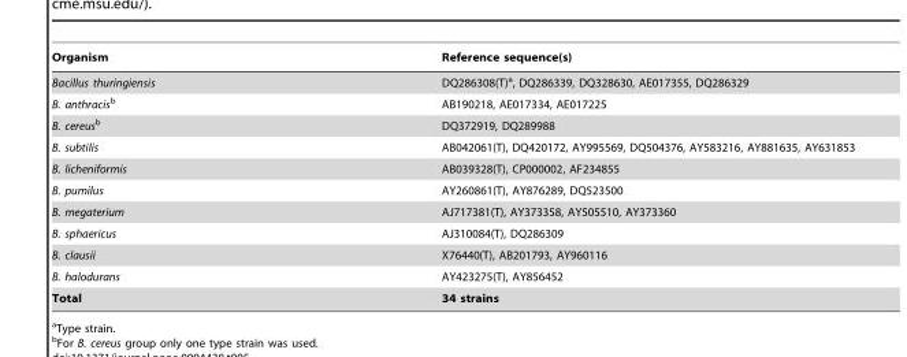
<table><thead><tr><td>Organism</td><td>Reference sequence(s)</td></tr></thead><tbody><tr><td>Bacillus thuringiensis</td><td>DQ286308(T)<sup>a</sup>, DQ286339, DQ328630, AE017355, DQ286329</td></tr><tr><td>B. anthracisb</td><td>AB190218, AE017334, AE017225</td></tr><tr><td>B. cereusb</td><td>DQ372919, DQ289988</td></tr><tr><td>B. subtilis</td><td>AB042061(T), DQ420172, AY995569, DQ504376, AY583216, AY881635, AY631853</td></tr><tr><td>B. licheniformis</td><td>AB039328(T), CP000002, AF234855</td></tr><tr><td>B. pumilus</td><td>AY260861(T), AY876289, DQ523500</td></tr><tr><td>B. megaterium</td><td>AJ717381(T), AY373358, AY505510, AY373360</td></tr><tr><td>B. sphaericus</td><td>AJ310084(T), DQ286309</td></tr><tr><td>B. clausii</td><td>X76440(T), AB201793, AY960116</td></tr><tr><td>B. halodurans</td><td>AY423275(T), AY856452</td></tr><tr><td>Total</td><td>34 strains</td></tr></tbody></table>